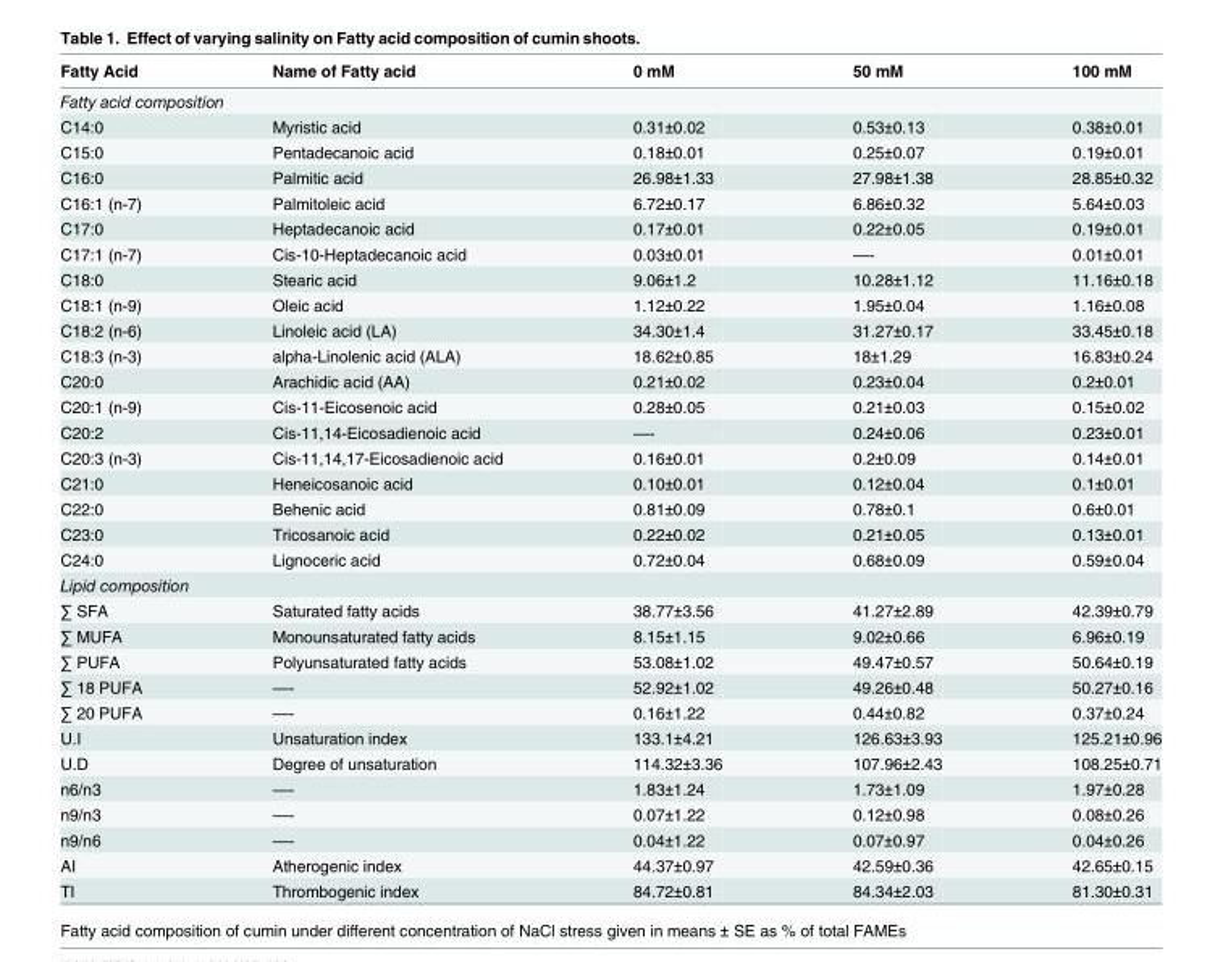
<table><thead><tr><td>Fatty Acid</td><td>Name of Fatty acid</td><td>0 mM</td><td>50 mM</td><td>100 mM</td></tr></thead><tbody><tr><td colspan="5">Fatty acid composition</td></tr><tr><td>C14:0</td><td>Myristic acid</td><td>0.31±0.02</td><td>0.53±0.13</td><td>0.38±0.01</td></tr><tr><td>C15:0</td><td>Pentadecanoic acid</td><td>0.18±0.01</td><td>0.25±0.07</td><td>0.19±0.01</td></tr><tr><td>C16:0</td><td>Palmitic acid</td><td>26.98±1.33</td><td>27.98±1.38</td><td>28.85±0.32</td></tr><tr><td>C16:1 (n-7)</td><td>Palmitoleic acid</td><td>6.72±0.17</td><td>6.86±0.32</td><td>5.64±0.03</td></tr><tr><td>C17:0</td><td>Heptadecanoic acid</td><td>0.17±0.01</td><td>0.22±0.05</td><td>0.19±0.01</td></tr><tr><td>C17:1 (n-7)</td><td>Cis-10-Heptadecanoic acid</td><td>0.03±0.01</td><td>—-</td><td>0.01±0.01</td></tr><tr><td>C18:0</td><td>Stearic acid</td><td>9.06±1.2</td><td>10.28±1.12</td><td>11.16±0.18</td></tr><tr><td>C18:1 (n-9)</td><td>Oleic acid</td><td>1.12±0.22</td><td>1.95±0.04</td><td>1.16±0.08</td></tr><tr><td>C18:2 (n-6)</td><td>Linoleic acid (LA)</td><td>34.30±1.4</td><td>31.27±0.17</td><td>33.45±0.18</td></tr><tr><td>C18:3 (n-3)</td><td>alpha-Linolenic acid (ALA)</td><td>18.62±0.85</td><td>18±1.29</td><td>16.83±0.24</td></tr><tr><td>C20:0</td><td>Arachidic acid (AA)</td><td>0.21±0.02</td><td>0.23±0.04</td><td>0.2±0.01</td></tr><tr><td>C20:1 (n-9)</td><td>Cis-11-Eicosenoic acid</td><td>0.28±0.05</td><td>0.21±0.03</td><td>0.15±0.02</td></tr><tr><td>C20:2</td><td>Cis-11,14-Eicosadienoic acid</td><td>—-</td><td>0.24±0.06</td><td>0.23±0.01</td></tr><tr><td>C20:3 (n-3)</td><td>Cis-11,14,17-Eicosadienoic acid</td><td>0.16±0.01</td><td>0.2±0.09</td><td>0.14±0.01</td></tr><tr><td>C21:0</td><td>Heneicosanoic acid</td><td>0.10±0.01</td><td>0.12±0.04</td><td>0.1±0.01</td></tr><tr><td>C22:0</td><td>Behenic acid</td><td>0.81±0.09</td><td>0.78±0.1</td><td>0.6±0.01</td></tr><tr><td>C23:0</td><td>Tricosanoic acid</td><td>0.22±0.02</td><td>0.21±0.05</td><td>0.13±0.01</td></tr><tr><td>C24:0</td><td>Lignoceric acid</td><td>0.72±0.04</td><td>0.68±0.09</td><td>0.59±0.04</td></tr><tr><td colspan="5">Lipid composition</td></tr><tr><td>∑ SFA</td><td>Saturated fatty acids</td><td>38.77±3.56</td><td>41.27±2.89</td><td>42.39±0.79</td></tr><tr><td>∑ MUFA</td><td>Monounsaturated fatty acids</td><td>8.15±1.15</td><td>9.02±0.66</td><td>6.96±0.19</td></tr><tr><td>∑ PUFA</td><td>Polyunsaturated fatty acids</td><td>53.08±1.02</td><td>49.47±0.57</td><td>50.64±0.19</td></tr><tr><td>∑ 18 PUFA</td><td>—-</td><td>52.92±1.02</td><td>49.26±0.48</td><td>50.27±0.16</td></tr><tr><td>∑ 20 PUFA</td><td>—-</td><td>0.16±1.22</td><td>0.44±0.82</td><td>0.37±0.24</td></tr><tr><td>U.I</td><td>Unsaturation index</td><td>133.1±4.21</td><td>126.63±3.93</td><td>125.21±0.96</td></tr><tr><td>U.D</td><td>Degree of unsaturation</td><td>114.32±3.36</td><td>107.96±2.43</td><td>108.25±0.71</td></tr><tr><td>n6/n3</td><td>—-</td><td>1.83±1.24</td><td>1.73±1.09</td><td>1.97±0.28</td></tr><tr><td>n9/n3</td><td>—-</td><td>0.07±1.22</td><td>0.12±0.98</td><td>0.08±0.26</td></tr><tr><td>n9/n6</td><td>—-</td><td>0.04±1.22</td><td>0.07±0.97</td><td>0.04±0.26</td></tr><tr><td>AI</td><td>Atherogenic index</td><td>44.37±0.97</td><td>42.59±0.36</td><td>42.65±0.15</td></tr><tr><td>TI</td><td>Thrombogenic index</td><td>84.72±0.81</td><td>84.34±2.03</td><td>81.30±0.31</td></tr></tbody></table>